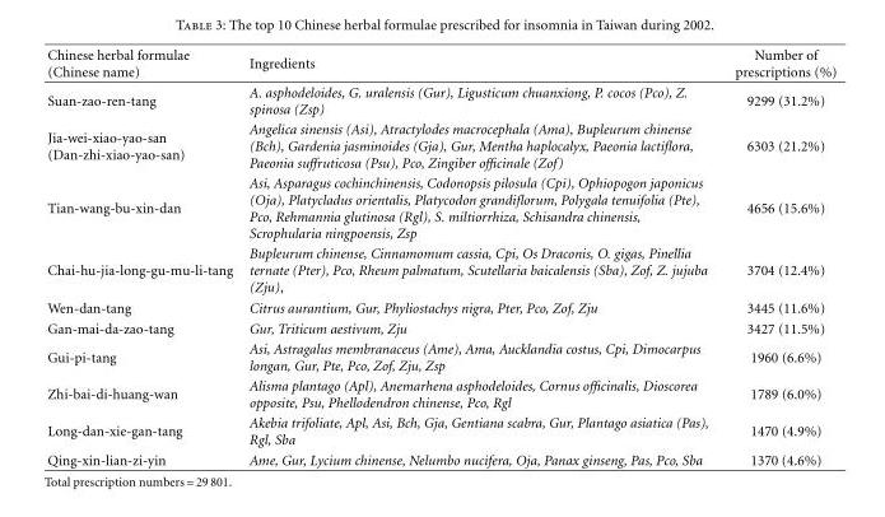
<table><thead><tr><td>Chinese herbal formulae (Chinese name)</td><td>Ingredients</td><td>Number of prescriptions (%)</td></tr></thead><tbody><tr><td>Suan-zao-ren-tang</td><td>A. asphodeloides, G. uralensis (Gur), Ligusticum chuanxiong, P. cocos (Pco), Z. spinosa (Zsp)</td><td>9299 (31.2%)</td></tr><tr><td>Jia-wei-xiao-yao-san (Dan-zhi-xiao-yao-san)</td><td>Angelica sinensis (Asi), Atractylodes macrocephala (Ama), Bupleurum chinense (Bch), Gardenia jasminoides (Gja), Gur, Mentha haplocalyx, Paeonia lactiflora, Paeonia suffruticosa (Psu), Pco, Zingiber officinale (Zof)</td><td>6303 (21.2%)</td></tr><tr><td>Tian-wang-bu-xin-dan</td><td>Asi, Asparagus cochinchinensis, Codonopsis pilosula (Cpi), Ophiopogon japonicus (Oja), Platycladus orientalis, Platycodon grandiflorum, Polygala tenuifolia (Pte), Pco, Rehmannia glutinosa (Rgl), S. miltiorrhiza, Schisandra chinensis, Scrophularia ningpoensis, Zsp</td><td>4656 (15.6%)</td></tr><tr><td>Chai-hu-jia-long-gu-mu-li-tang</td><td>Bupleurum chinense, Cinnamomum cassia, Cpi, Os Draconis, O. gigas, Pinellia ternate (Pter), Pco, Rheum palmatum, Scutellaria baicalensis (Sba), Zof, Z. jujuba (Zju),</td><td>3704 (12.4%)</td></tr><tr><td>Wen-dan-tang</td><td>Citrus aurantium, Gur, Phyliostachys nigra, Pter, Pco, Zof, Zju</td><td>3445 (11.6%)</td></tr><tr><td>Gan-mai-da-zao-tang</td><td>Gur, Triticum aestivum, Zju</td><td>3427 (11.5%)</td></tr><tr><td>Gui-pi-tang</td><td>Asi, Astragalus membranaceus (Ame), Ama, Aucklandia costus, Cpi, Dimocarpus longan, Gur, Pte, Pco, Zof, Zju, Zsp</td><td>1960 (6.6%)</td></tr><tr><td>Zhi-bai-di-huang-wan</td><td>Alisma plantago (Apl), Anemarhena asphodeloides, Cornus officinalis, Dioscorea opposite, Psu, Phellodendron chinense, Pco, Rgl</td><td>1789 (6.0%)</td></tr><tr><td>Long-dan-xie-gan-tang</td><td>Akebia trifoliate, Apl, Asi, Bch, Gja, Gentiana scabra, Gur, Plantago asiatica (Pas), Rgl, Sba</td><td>1470 (4.9%)</td></tr><tr><td>Qing-xin-lian-zi-yin</td><td>Ame, Gur, Lycium chinense, Nelumbo nucifera, Oja, Panax ginseng, Pas, Pco, Sba</td><td>1370 (4.6%)</td></tr></tbody></table>